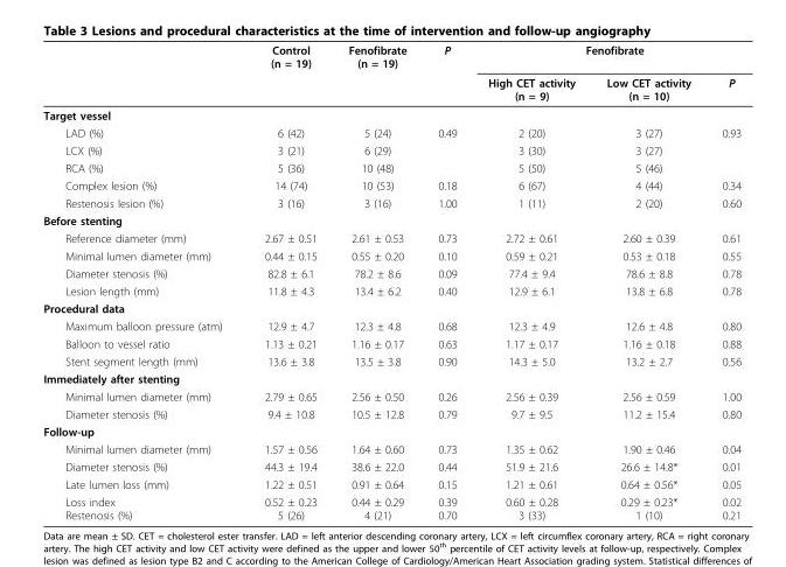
<table><thead><tr><td rowspan="2"></td><td rowspan="2">Control (n = 19)</td><td rowspan="2">Fenofibrate (n = 19)</td><td rowspan="2">P</td><td colspan="3">Fenofibrate</td></tr><tr><td>High CET activity (n = 9)</td><td>Low CET activity (n = 10)</td><td>P</td></tr></thead><tbody><tr><td colspan="7">Target vessel</td></tr><tr><td>LAD (%)</td><td>6 (42)</td><td>5 (24)</td><td>0.49</td><td>2 (20)</td><td>3 (27)</td><td>0.93</td></tr><tr><td>LCX (%)</td><td>3 (21)</td><td>6 (29)</td><td></td><td>3 (30)</td><td>3 (27)</td><td></td></tr><tr><td>RCA (%)</td><td>5 (36)</td><td>10 (48)</td><td></td><td>5 (50)</td><td>5 (46)</td><td></td></tr><tr><td>Complex lesion (%)</td><td>14 (74)</td><td>10 (53)</td><td>0.18</td><td>6 (67)</td><td>4 (44)</td><td>0.34</td></tr><tr><td>Restenosis lesion (%)</td><td>3 (16)</td><td>3 (16)</td><td>1.00</td><td>1 (11)</td><td>2 (20)</td><td>0.60</td></tr><tr><td colspan="7">Before stenting</td></tr><tr><td>Reference diameter (mm)</td><td>2.67 ± 0.51</td><td>2.61 ± 0.53</td><td>0.73</td><td>2.72 ± 0.61</td><td>2.60 ± 0.39</td><td>0.61</td></tr><tr><td>Minimal lumen diameter (mm)</td><td>0.44 ± 0.15</td><td>0.55 ± 0.20</td><td>0.10</td><td>0.59 ± 0.21</td><td>0.53 ± 0.18</td><td>0.55</td></tr><tr><td>Diameter stenosis (%)</td><td>82.8 ± 6.1</td><td>78.2 ± 8.6</td><td>0.09</td><td>77.4 ± 9.4</td><td>78.6 ± 8.8</td><td>0.78</td></tr><tr><td>Lesion length (mm)</td><td>11.8 ± 4.3</td><td>13.4 ± 6.2</td><td>0.40</td><td>12.9 ± 6.1</td><td>13.8 ± 6.8</td><td>0.78</td></tr><tr><td colspan="7">Procedural data</td></tr><tr><td>Maximum balloon pressure (atm)</td><td>12.9 ± 4.7</td><td>12.3 ± 4.8</td><td>0.68</td><td>12.3 ± 4.9</td><td>12.6 ± 4.8</td><td>0.80</td></tr><tr><td>Balloon to vessel ratio</td><td>1.13 ± 0.21</td><td>1.16 ± 0.17</td><td>0.63</td><td>1.17 ± 0.17</td><td>1.16 ± 0.18</td><td>0.88</td></tr><tr><td>Stent segment length (mm)</td><td>13.6 ± 3.8</td><td>13.5 ± 3.8</td><td>0.90</td><td>14.3 ± 5.0</td><td>13.2 ± 2.7</td><td>0.56</td></tr><tr><td colspan="7">Immediately after stenting</td></tr><tr><td>Minimal lumen diameter (mm)</td><td>2.79 ± 0.65</td><td>2.56 ± 0.50</td><td>0.26</td><td>2.56 ± 0.39</td><td>2.56 ± 0.59</td><td>1.00</td></tr><tr><td>Diameter stenosis (%)</td><td>9.4 ± 10.8</td><td>10.5 ± 12.8</td><td>0.79</td><td>9.7 ± 9.5</td><td>11.2 ± 15.4</td><td>0.80</td></tr><tr><td colspan="7">Follow-up</td></tr><tr><td>Minimal lumen diameter (mm)</td><td>1.57 ± 0.56</td><td>1.64 ± 0.60</td><td>0.73</td><td>1.35 ± 0.62</td><td>1.90 ± 0.46</td><td>0.04</td></tr><tr><td>Diameter stenosis (%)</td><td>44.3 ± 19.4</td><td>38.6 ± 22.0</td><td>0.44</td><td>51.9 ± 21.6</td><td>26.6 ± 14.8*</td><td>0.01</td></tr><tr><td>Late lumen loss (mm)</td><td>1.22 ± 0.51</td><td>0.91 ± 0.64</td><td>0.15</td><td>1.21 ± 0.61</td><td>0.64 ± 0.56*</td><td>0.05</td></tr><tr><td>Loss index Restenosis (%)</td><td>0.52 ± 0.23 5 (26)</td><td>0.44 ± 0.29 4 (21)</td><td>0.39 0.70</td><td>0.60 ± 0.28 3 (33)</td><td>0.29 ± 0.23* 1 (10)</td><td>0.02 0.21</td></tr></tbody></table>